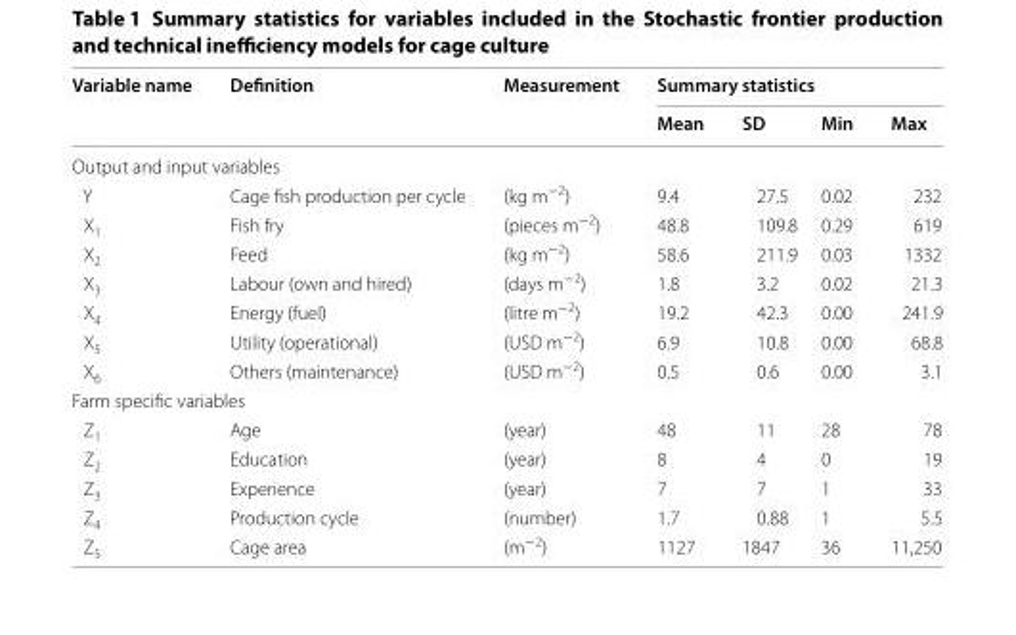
<table><thead><tr><td rowspan="2">Variable name</td><td rowspan="2">Definition</td><td rowspan="2">Measurement</td><td colspan="4">Summary statistics</td></tr><tr><td>Mean</td><td>SD</td><td>Min</td><td>Max</td></tr></thead><tbody><tr><td colspan="7">Output and input variables</td></tr><tr><td>Y</td><td>Cage fish production per cycle</td><td>(kg m<sup>−2</sup>)</td><td>9.4</td><td>27.5</td><td>0.02</td><td>232</td></tr><tr><td>X<sub>1</sub></td><td>Fish fry</td><td>(pieces m<sup>−2</sup>)</td><td>48.8</td><td>109.8</td><td>0.29</td><td>619</td></tr><tr><td>X<sub>2</sub></td><td>Feed</td><td>(kg m<sup>−2</sup>)</td><td>58.6</td><td>211.9</td><td>0.03</td><td>1332</td></tr><tr><td>X<sub>3</sub></td><td>Labour (own and hired)</td><td>(days m<sup>−2</sup>)</td><td>1.8</td><td>3.2</td><td>0.02</td><td>21.3</td></tr><tr><td>X<sub>4</sub></td><td>Energy (fuel)</td><td>(litre m<sup>−2</sup>)</td><td>19.2</td><td>42.3</td><td>0.00</td><td>241.9</td></tr><tr><td>X<sub>5</sub></td><td>Utility (operational)</td><td>(USD m<sup>−2</sup>)</td><td>6.9</td><td>10.8</td><td>0.00</td><td>68.8</td></tr><tr><td>X<sub>6</sub></td><td>Others (maintenance)</td><td>(USD m<sup>−2</sup>)</td><td>0.5</td><td>0.6</td><td>0.00</td><td>3.1</td></tr><tr><td colspan="7">Farm specific variables</td></tr><tr><td>Z<sub>1</sub></td><td>Age</td><td>(year)</td><td>48</td><td>11</td><td>28</td><td>78</td></tr><tr><td>Z<sub>2</sub></td><td>Education</td><td>(year)</td><td>8</td><td>4</td><td>0</td><td>19</td></tr><tr><td>Z<sub>3</sub></td><td>Experience</td><td>(year)</td><td>7</td><td>7</td><td>1</td><td>33</td></tr><tr><td>Z<sub>4</sub></td><td>Production cycle</td><td>(number)</td><td>1.7</td><td>0.88</td><td>1</td><td>5.5</td></tr><tr><td>Z<sub>5</sub></td><td>Cage area</td><td>(m<sup>−2</sup>)</td><td>1127</td><td>1847</td><td>36</td><td>11,250</td></tr></tbody></table>